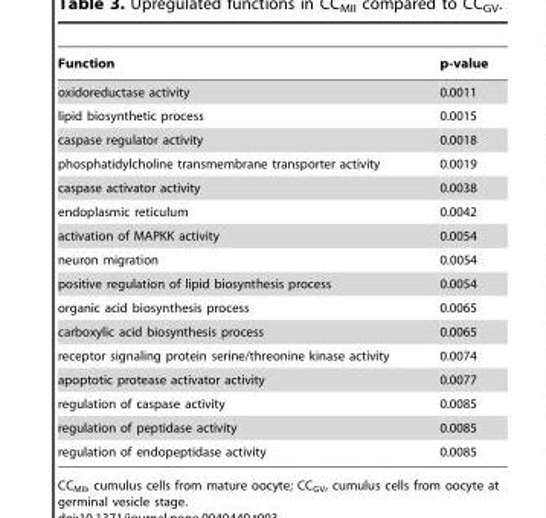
<table><thead><tr><td>Function</td><td>p-value</td></tr></thead><tbody><tr><td>oxidoreductase activity</td><td>0.0011</td></tr><tr><td>lipid biosynthetic process</td><td>0.0015</td></tr><tr><td>caspase regulator activity</td><td>0.0018</td></tr><tr><td>phosphatidylcholine transmembrane transporter activity</td><td>0.0019</td></tr><tr><td>caspase activator activity</td><td>0.0038</td></tr><tr><td>endoplasmic reticulum</td><td>0.0042</td></tr><tr><td>activation of MAPKK activity</td><td>0.0054</td></tr><tr><td>neuron migration</td><td>0.0054</td></tr><tr><td>positive regulation of lipid biosynthesis process</td><td>0.0054</td></tr><tr><td>organic acid biosynthesis process</td><td>0.0065</td></tr><tr><td>carboxylic acid biosynthesis process</td><td>0.0065</td></tr><tr><td>receptor signaling protein serine/threonine kinase activity</td><td>0.0074</td></tr><tr><td>apoptotic protease activator activity</td><td>0.0077</td></tr><tr><td>regulation of caspase activity</td><td>0.0085</td></tr><tr><td>regulation of peptidase activity</td><td>0.0085</td></tr><tr><td>regulation of endopeptidase activity</td><td>0.0085</td></tr></tbody></table>